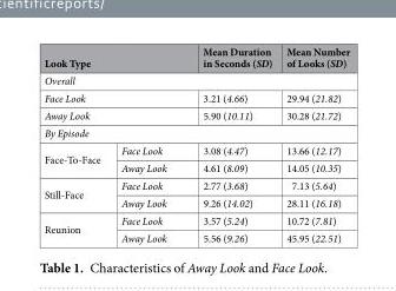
<table><thead><tr><td colspan="2">Look Type</td><td>Mean Duration in Seconds (SD)</td><td>Mean Number of Looks (SD)</td></tr></thead><tbody><tr><td colspan="4">Overall</td></tr><tr><td colspan="2">Face Look</td><td>3.21 (4.66)</td><td>29.94 (21.82)</td></tr><tr><td colspan="2">Away Look</td><td>5.90 (10.11)</td><td>30.28 (21.72)</td></tr><tr><td colspan="4">By Episode</td></tr><tr><td rowspan="2">Face-To-Face</td><td>Face Look</td><td>3.08 (4.47)</td><td>13.66 (12.17)</td></tr><tr><td>Away Look</td><td>4.61 (8.09)</td><td>14.05 (10.35)</td></tr><tr><td rowspan="2">Still-Face</td><td>Face Look</td><td>2.77 (3.68)</td><td>7.13 (5.64)</td></tr><tr><td>Away Look</td><td>9.26 (14.02)</td><td>28.11 (16.18)</td></tr><tr><td rowspan="2">Reunion</td><td>Face Look</td><td>3.57 (5.24)</td><td>10.72 (7.81)</td></tr><tr><td>Away Look</td><td>5.56 (9.26)</td><td>45.95 (22.51)</td></tr></tbody></table>